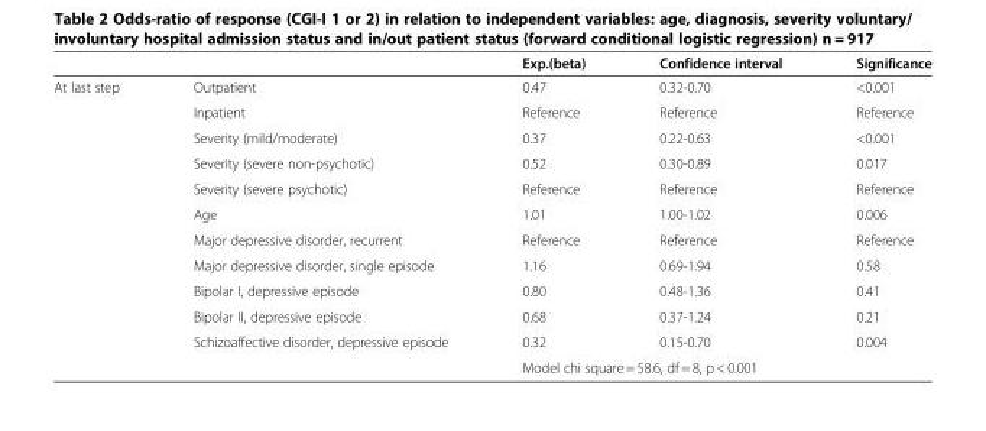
<table><thead><tr><td></td><td></td><td>Exp.(beta)</td><td>Confidence interval</td><td>Significance</td></tr></thead><tbody><tr><td rowspan="12">At last step</td><td>Outpatient</td><td>0.47</td><td>0.32-0.70</td><td>&lt;0.001</td></tr><tr><td>Inpatient</td><td>Reference</td><td>Reference</td><td>Reference</td></tr><tr><td>Severity (mild/moderate)</td><td>0.37</td><td>0.22-0.63</td><td>&lt;0.001</td></tr><tr><td>Severity (severe non-psychotic)</td><td>0.52</td><td>0.30-0.89</td><td>0.017</td></tr><tr><td>Severity (severe psychotic)</td><td>Reference</td><td>Reference</td><td>Reference</td></tr><tr><td>Age</td><td>1.01</td><td>1.00-1.02</td><td>0.006</td></tr><tr><td>Major depressive disorder, recurrent</td><td>Reference</td><td>Reference</td><td>Reference</td></tr><tr><td>Major depressive disorder, single episode</td><td>1.16</td><td>0.69-1.94</td><td>0.58</td></tr><tr><td>Bipolar I, depressive episode</td><td>0.80</td><td>0.48-1.36</td><td>0.41</td></tr><tr><td>Bipolar II, depressive episode</td><td>0.68</td><td>0.37-1.24</td><td>0.21</td></tr><tr><td>Schizoaffective disorder, depressive episode</td><td>0.32</td><td>0.15-0.70</td><td>0.004</td></tr><tr><td></td><td colspan="3">Model chi square = 58.6, df = 8, p &lt; 0.001</td></tr></tbody></table>